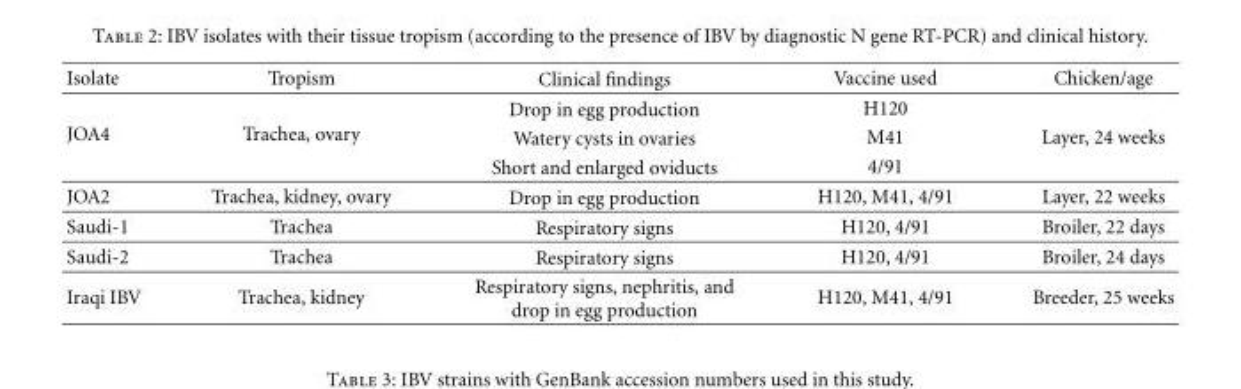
<table><thead><tr><td>Isolate</td><td>Tropism</td><td>Clinical findings</td><td>Vaccine used</td><td>Chicken/age</td></tr></thead><tbody><tr><td rowspan="3">JOA4</td><td rowspan="3">Trachea, ovary</td><td>Drop in egg production</td><td>H120</td><td></td></tr><tr><td>Watery cysts in ovaries</td><td>M41</td><td>Layer, 24 weeks</td></tr><tr><td>Short and enlarged oviducts</td><td>4/91</td><td></td></tr><tr><td>JOA2</td><td>Trachea, kidney, ovary</td><td>Drop in egg production</td><td>H120, M41, 4/91</td><td>Layer, 22 weeks</td></tr><tr><td>Saudi-1</td><td>Trachea</td><td>Respiratory signs</td><td>H120, 4/91</td><td>Broiler, 22 days</td></tr><tr><td>Saudi-2</td><td>Trachea</td><td>Respiratory signs</td><td>H120, 4/91</td><td>Broiler, 24 days</td></tr><tr><td>Iraqi IBV</td><td>Trachea, kidney</td><td>Respiratory signs, nephritis, and drop in egg production</td><td>H120, M41, 4/91</td><td>Breeder, 25 weeks</td></tr></tbody></table>